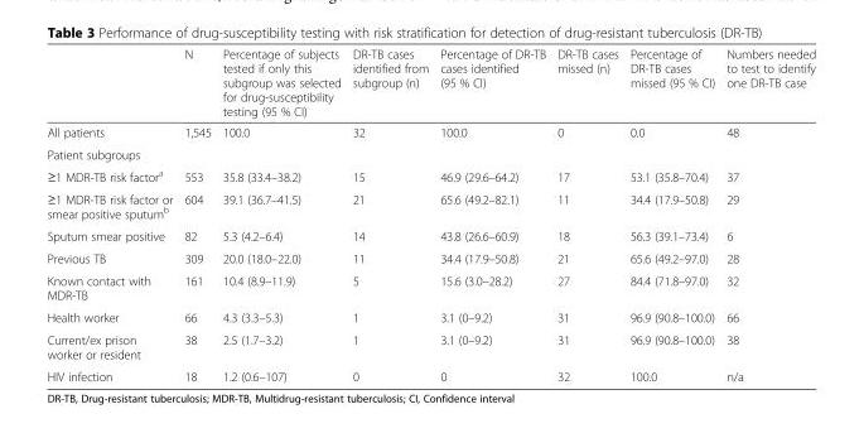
<table><thead><tr><td></td><td>N</td><td>Percentage of subjects tested if only this subgroup was selected for drug-susceptibility testing (95 % CI)</td><td>DR-TB cases identified from subgroup (n)</td><td>Percentage of DR-TB cases identified (95 % CI)</td><td>DR-TB cases missed (n)</td><td>Percentage of DR-TB cases missed (95 % CI)</td><td>Numbers needed to test to identify one DR-TB case</td></tr></thead><tbody><tr><td>All patients</td><td>1,545</td><td>100.0</td><td>32</td><td>100.0</td><td>0</td><td>0.0</td><td>48</td></tr><tr><td colspan="8">Patient subgroups</td></tr><tr><td>≥1 MDR-TB risk factor<sup>a</sup></td><td>553</td><td>35.8 (33.4–38.2)</td><td>15</td><td>46.9 (29.6–64.2)</td><td>17</td><td>53.1 (35.8–70.4)</td><td>37</td></tr><tr><td>≥1 MDR-TB risk factor or smear positive sputum<sup>b</sup></td><td>604</td><td>39.1 (36.7–41.5)</td><td>21</td><td>65.6 (49.2–82.1)</td><td>11</td><td>34.4 (17.9–50.8)</td><td>29</td></tr><tr><td>Sputum smear positive</td><td>82</td><td>5.3 (4.2–6.4)</td><td>14</td><td>43.8 (26.6–60.9)</td><td>18</td><td>56.3 (39.1–73.4)</td><td>6</td></tr><tr><td>Previous TB</td><td>309</td><td>20.0 (18.0–22.0)</td><td>11</td><td>34.4 (17.9–50.8)</td><td>21</td><td>65.6 (49.2–97.0)</td><td>28</td></tr><tr><td>Known contact with MDR-TB</td><td>161</td><td>10.4 (8.9–11.9)</td><td>5</td><td>15.6 (3.0–28.2)</td><td>27</td><td>84.4 (71.8–97.0)</td><td>32</td></tr><tr><td>Health worker</td><td>66</td><td>4.3 (3.3–5.3)</td><td>1</td><td>3.1 (0–9.2)</td><td>31</td><td>96.9 (90.8–100.0)</td><td>66</td></tr><tr><td>Current/ex prison worker or resident</td><td>38</td><td>2.5 (1.7–3.2)</td><td>1</td><td>3.1 (0–9.2)</td><td>31</td><td>96.9 (90.8–100.0)</td><td>38</td></tr><tr><td>HIV infection</td><td>18</td><td>1.2 (0.6–107)</td><td>0</td><td>0</td><td>32</td><td>100.0</td><td>n/a</td></tr></tbody></table>